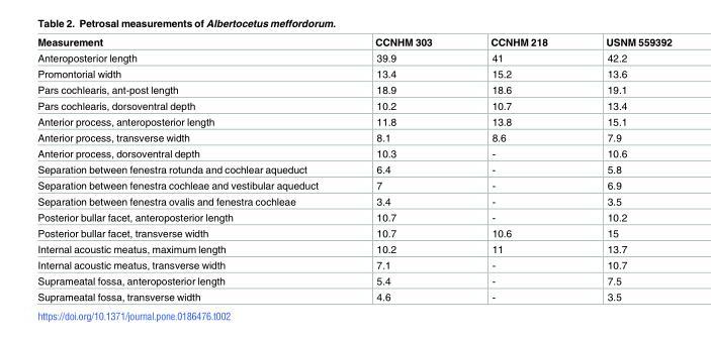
<table><thead><tr><td>Measurement</td><td>CCNHM 303</td><td>CCNHM 218</td><td>USNM 559392</td></tr></thead><tbody><tr><td>Anteroposterior length</td><td>39.9</td><td>41</td><td>42.2</td></tr><tr><td>Promontorial width</td><td>13.4</td><td>15.2</td><td>13.6</td></tr><tr><td>Pars cochlearis, ant-post length</td><td>18.9</td><td>18.6</td><td>19.1</td></tr><tr><td>Pars cochlearis, dorsoventral depth</td><td>10.2</td><td>10.7</td><td>13.4</td></tr><tr><td>Anterior process, anteroposterior length</td><td>11.8</td><td>13.8</td><td>15.1</td></tr><tr><td>Anterior process, transverse width</td><td>8.1</td><td>8.6</td><td>7.9</td></tr><tr><td>Anterior process, dorsoventral depth</td><td>10.3</td><td>-</td><td>10.6</td></tr><tr><td>Separation between fenestra rotunda and cochlear aqueduct</td><td>6.4</td><td>-</td><td>5.8</td></tr><tr><td>Separation between fenestra cochleae and vestibular aqueduct</td><td>7</td><td>-</td><td>6.9</td></tr><tr><td>Separation between fenestra ovalis and fenestra cochleae</td><td>3.4</td><td>-</td><td>3.5</td></tr><tr><td>Posterior bullar facet, anteroposterior length</td><td>10.7</td><td>-</td><td>10.2</td></tr><tr><td>Posterior bullar facet, transverse width</td><td>10.7</td><td>10.6</td><td>15</td></tr><tr><td>Internal acoustic meatus, maximum length</td><td>10.2</td><td>11</td><td>13.7</td></tr><tr><td>Internal acoustic meatus, transverse width</td><td>7.1</td><td>-</td><td>10.7</td></tr><tr><td>Suprameatal fossa, anteroposterior length</td><td>5.4</td><td>-</td><td>7.5</td></tr><tr><td>Suprameatal fossa, transverse width</td><td>4.6</td><td>-</td><td>3.5</td></tr></tbody></table>